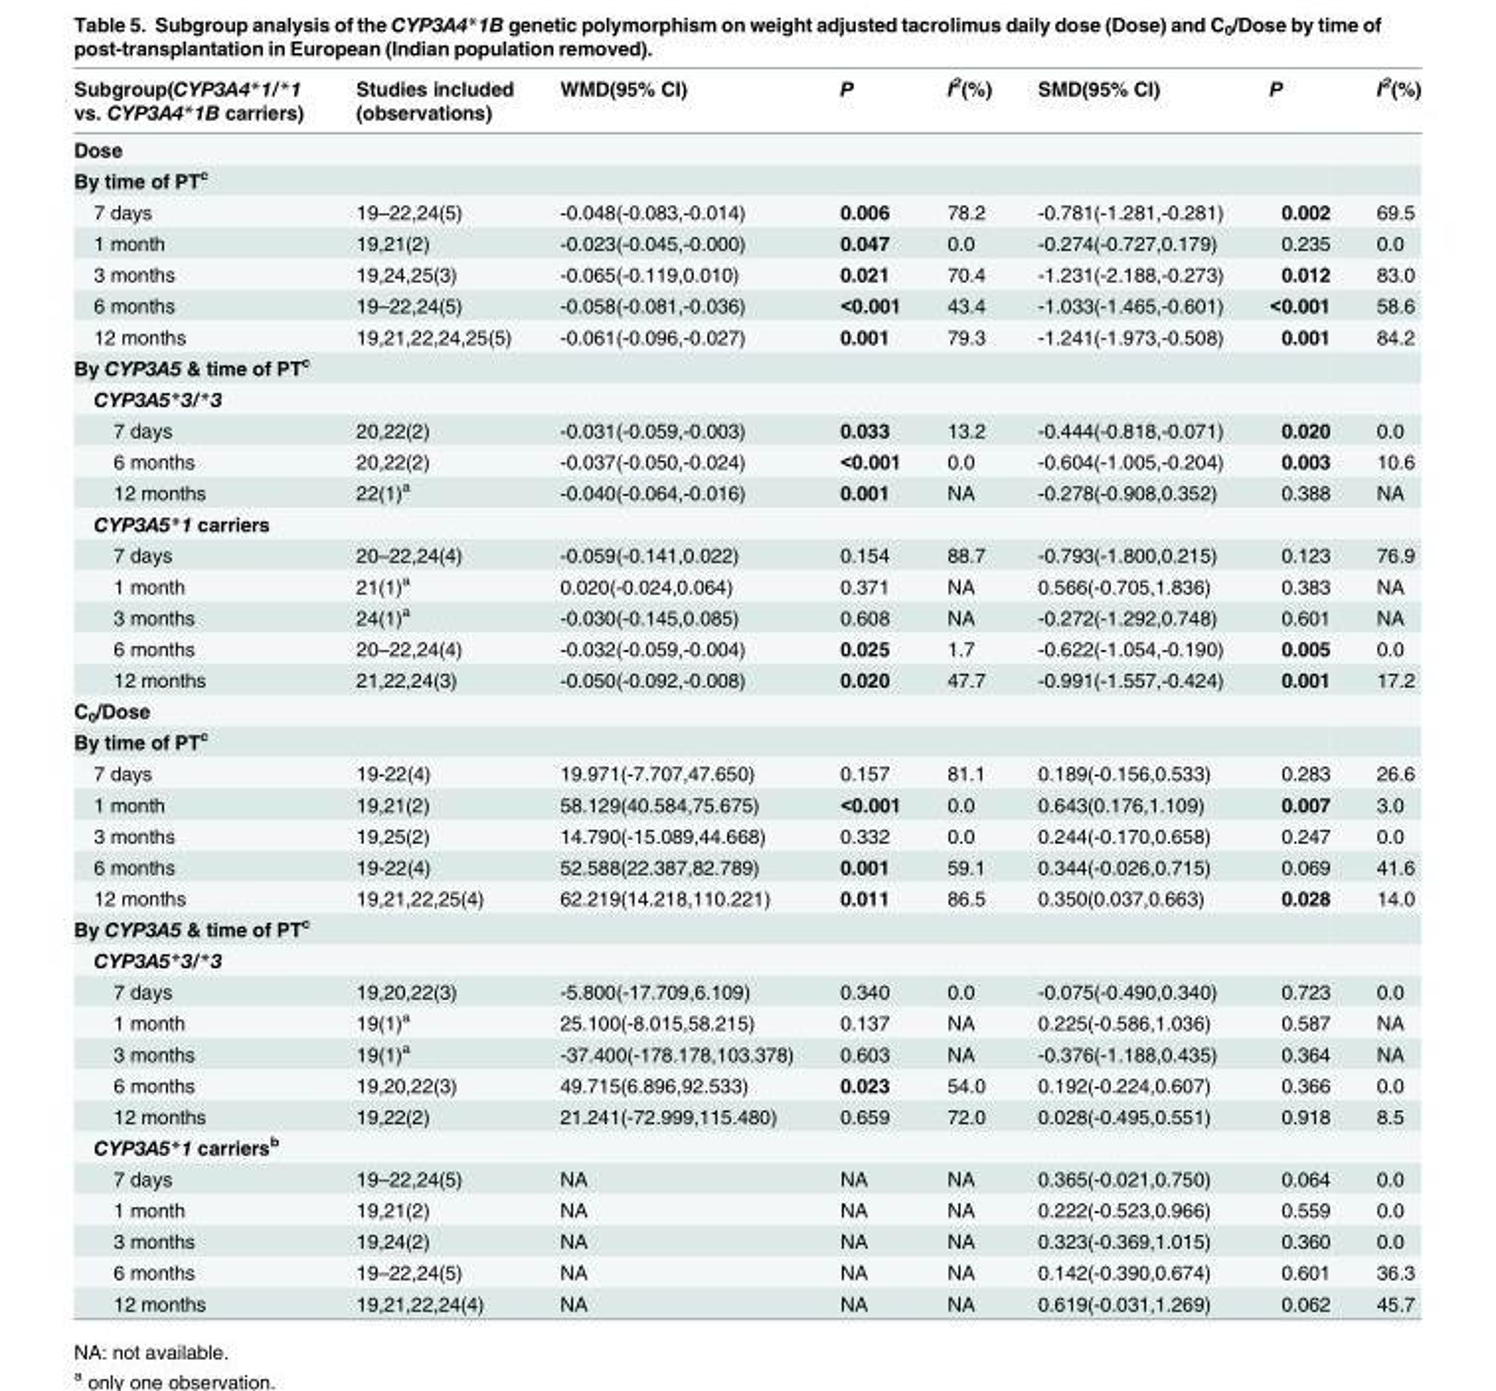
<table><thead><tr><td>Subgroup(CYP3A4*1/*1 vs. CYP3A4*1B carriers)</td><td>Studies included (observations)</td><td>WMD(95% CI)</td><td>P</td><td>I<sup>2</sup>(%)</td><td>SMD(95% CI)</td><td>P</td><td>I<sup>2</sup>(%)</td></tr></thead><tbody><tr><td colspan="8">Dose</td></tr><tr><td colspan="8">By time of PT<sup>c</sup></td></tr><tr><td>7 days</td><td>19–22,24(5)</td><td>-0.048(-0.083,-0.014)</td><td>0.006</td><td>78.2</td><td>-0.781(-1.281,-0.281)</td><td>0.002</td><td>69.5</td></tr><tr><td>1 month</td><td>19,21(2)</td><td>-0.023(-0.045,-0.000)</td><td>0.047</td><td>0.0</td><td>-0.274(-0.727,0.179)</td><td>0.235</td><td>0.0</td></tr><tr><td>3 months</td><td>19,24,25(3)</td><td>-0.065(-0.119,0.010)</td><td>0.021</td><td>70.4</td><td>-1.231(-2.188,-0.273)</td><td>0.012</td><td>83.0</td></tr><tr><td>6 months</td><td>19–22,24(5)</td><td>-0.058(-0.081,-0.036)</td><td>&lt;0.001</td><td>43.4</td><td>-1.033(-1.465,-0.601)</td><td>&lt;0.001</td><td>58.6</td></tr><tr><td>12 months</td><td>19,21,22,24,25(5)</td><td>-0.061(-0.096,-0.027)</td><td>0.001</td><td>79.3</td><td>-1.241(-1.973,-0.508)</td><td>0.001</td><td>84.2</td></tr><tr><td colspan="8">By CYP3A5 &amp; time of PT<sup>c</sup></td></tr><tr><td colspan="8">CYP3A5*3/*3</td></tr><tr><td>7 days</td><td>20,22(2)</td><td>-0.031(-0.059,-0.003)</td><td>0.033</td><td>13.2</td><td>-0.444(-0.818,-0.071)</td><td>0.020</td><td>0.0</td></tr><tr><td>6 months</td><td>20,22(2)</td><td>-0.037(-0.050,-0.024)</td><td>&lt;0.001</td><td>0.0</td><td>-0.604(-1.005,-0.204)</td><td>0.003</td><td>10.6</td></tr><tr><td>12 months</td><td>22(1)<sup>a</sup></td><td>-0.040(-0.064,-0.016)</td><td>0.001</td><td>NA</td><td>-0.278(-0.908,0.352)</td><td>0.388</td><td>NA</td></tr><tr><td colspan="8">CYP3A5*1 carriers</td></tr><tr><td>7 days</td><td>20–22,24(4)</td><td>-0.059(-0.141,0.022)</td><td>0.154</td><td>88.7</td><td>-0.793(-1.800,0.215)</td><td>0.123</td><td>76.9</td></tr><tr><td>1 month</td><td>21(1)<sup>a</sup></td><td>0.020(-0.024,0.064)</td><td>0.371</td><td>NA</td><td>0.566(-0.705,1.836)</td><td>0.383</td><td>NA</td></tr><tr><td>3 months</td><td>24(1)<sup>a</sup></td><td>-0.030(-0.145,0.085)</td><td>0.608</td><td>NA</td><td>-0.272(-1.292,0.748)</td><td>0.601</td><td>NA</td></tr><tr><td>6 months</td><td>20–22,24(4)</td><td>-0.032(-0.059,-0.004)</td><td>0.025</td><td>1.7</td><td>-0.622(-1.054,-0.190)</td><td>0.005</td><td>0.0</td></tr><tr><td>12 months</td><td>21,22,24(3)</td><td>-0.050(-0.092,-0.008)</td><td>0.020</td><td>47.7</td><td>-0.991(-1.557,-0.424)</td><td>0.001</td><td>17.2</td></tr><tr><td colspan="8">C<sub>0</sub>/Dose</td></tr><tr><td colspan="8">By time of PT<sup>c</sup></td></tr><tr><td>7 days</td><td>19-22(4)</td><td>19.971(-7.707,47.650)</td><td>0.157</td><td>81.1</td><td>0.189(-0.156,0.533)</td><td>0.283</td><td>26.6</td></tr><tr><td>1 month</td><td>19,21(2)</td><td>58.129(40.584,75.675)</td><td>&lt;0.001</td><td>0.0</td><td>0.643(0.176,1.109)</td><td>0.007</td><td>3.0</td></tr><tr><td>3 months</td><td>19,25(2)</td><td>14.790(-15.089,44.668)</td><td>0.332</td><td>0.0</td><td>0.244(-0.170,0.658)</td><td>0.247</td><td>0.0</td></tr><tr><td>6 months</td><td>19-22(4)</td><td>52.588(22.387,82.789)</td><td>0.001</td><td>59.1</td><td>0.344(-0.026,0.715)</td><td>0.069</td><td>41.6</td></tr><tr><td>12 months</td><td>19,21,22,25(4)</td><td>62.219(14.218,110.221)</td><td>0.011</td><td>86.5</td><td>0.350(0.037,0.663)</td><td>0.028</td><td>14.0</td></tr><tr><td colspan="8">By CYP3A5 &amp; time of PT<sup>c</sup></td></tr><tr><td colspan="8">CYP3A5*3/*3</td></tr><tr><td>7 days</td><td>19,20,22(3)</td><td>-5.800(-17.709,6.109)</td><td>0.340</td><td>0.0</td><td>-0.075(-0.490,0.340)</td><td>0.723</td><td>0.0</td></tr><tr><td>1 month</td><td>19(1)<sup>a</sup></td><td>25.100(-8.015,58.215)</td><td>0.137</td><td>NA</td><td>0.225(-0.586,1.036)</td><td>0.587</td><td>NA</td></tr><tr><td>3 months</td><td>19(1)<sup>a</sup></td><td>-37.400(-178.178,103.378)</td><td>0.603</td><td>NA</td><td>-0.376(-1.188,0.435)</td><td>0.364</td><td>NA</td></tr><tr><td>6 months</td><td>19,20,22(3)</td><td>49.715(6.896,92.533)</td><td>0.023</td><td>54.0</td><td>0.192(-0.224,0.607)</td><td>0.366</td><td>0.0</td></tr><tr><td>12 months</td><td>19,22(2)</td><td>21.241(-72.999,115.480)</td><td>0.659</td><td>72.0</td><td>0.028(-0.495,0.551)</td><td>0.918</td><td>8.5</td></tr><tr><td colspan="8">CYP3A5*1 carriers<sup>b</sup></td></tr><tr><td>7 days</td><td>19–22,24(5)</td><td>NA</td><td>NA</td><td>NA</td><td>0.365(-0.021,0.750)</td><td>0.064</td><td>0.0</td></tr><tr><td>1 month</td><td>19,21(2)</td><td>NA</td><td>NA</td><td>NA</td><td>0.222(-0.523,0.966)</td><td>0.559</td><td>0.0</td></tr><tr><td>3 months</td><td>19,24(2)</td><td>NA</td><td>NA</td><td>NA</td><td>0.323(-0.369,1.015)</td><td>0.360</td><td>0.0</td></tr><tr><td>6 months</td><td>19–22,24(5)</td><td>NA</td><td>NA</td><td>NA</td><td>0.142(-0.390,0.674)</td><td>0.601</td><td>36.3</td></tr><tr><td>12 months</td><td>19,21,22,24(4)</td><td>NA</td><td>NA</td><td>NA</td><td>0.619(-0.031,1.269)</td><td>0.062</td><td>45.7</td></tr></tbody></table>